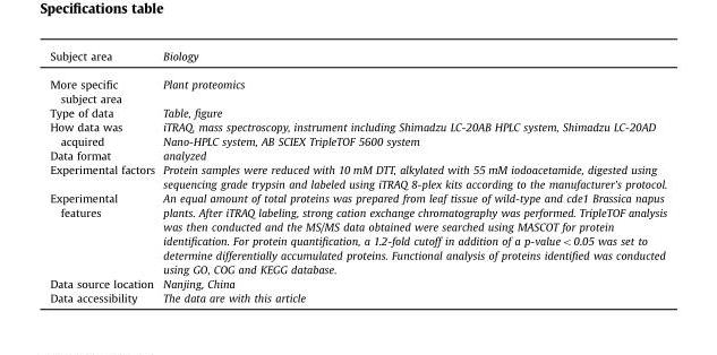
<table><thead><tr><td>Subject area</td><td>Biology</td></tr></thead><tbody><tr><td>More specific subject area</td><td>Plant proteomics</td></tr><tr><td>Type of data</td><td>Table, figure</td></tr><tr><td>How data was acquired</td><td>iTRAQ, mass spectroscopy, instrument including Shimadzu LC-20AB HPLC system, Shimadzu LC-20AD Nano-HPLC system, AB SCIEX TripleTOF 5600 system</td></tr><tr><td>Data format</td><td>analyzed</td></tr><tr><td>Experimental factors</td><td>Protein samples were reduced with 10 mM DTT, alkylated with 55 mM iodoacetamide, digested using sequencing grade trypsin and labeled using iTRAQ 8-plex kits according to the manufacturer’s protocol.</td></tr><tr><td>Experimental features</td><td>An equal amount of total proteins was prepared from leaf tissue of wild-type and cde1 Brassica napus plants. After iTRAQ labeling, strong cation exchange chromatography was performed. TripleTOF analysis was then conducted and the MS/MS data obtained were searched using MASCOT for protein identification. For protein quantification, a 1.2-fold cutoff in addition of a p-value&lt;0.05 was set to determine differentially accumulated proteins. Functional analysis of proteins identified was conducted using GO, COG and KEGG database.</td></tr><tr><td>Data source location</td><td>Nanjing, China</td></tr><tr><td>Data accessibility</td><td>The data are with this article</td></tr></tbody></table>